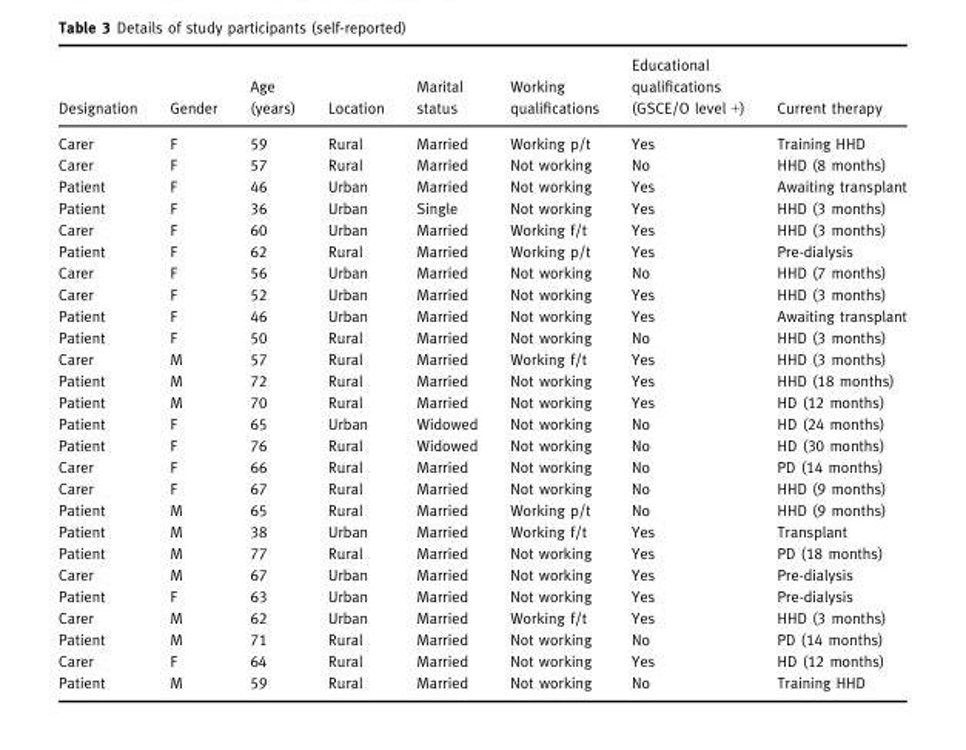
<table><thead><tr><td>Designation</td><td>Gender</td><td>Age (years)</td><td>Location</td><td>Marital status</td><td>Working qualifications</td><td>Educational qualifications (GSCE/O level +)</td><td>Current therapy</td></tr></thead><tbody><tr><td>Carer</td><td>F</td><td>59</td><td>Rural</td><td>Married</td><td>Working p/t</td><td>Yes</td><td>Training HHD</td></tr><tr><td>Carer</td><td>F</td><td>57</td><td>Rural</td><td>Married</td><td>Not working</td><td>No</td><td>HHD (8 months)</td></tr><tr><td>Patient</td><td>F</td><td>46</td><td>Urban</td><td>Married</td><td>Not working</td><td>Yes</td><td>Awaiting transplant</td></tr><tr><td>Patient</td><td>F</td><td>36</td><td>Urban</td><td>Single</td><td>Not working</td><td>Yes</td><td>HHD (3 months)</td></tr><tr><td>Carer</td><td>F</td><td>60</td><td>Urban</td><td>Married</td><td>Working f/t</td><td>Yes</td><td>HHD (3 months)</td></tr><tr><td>Patient</td><td>F</td><td>62</td><td>Rural</td><td>Married</td><td>Working p/t</td><td>Yes</td><td>Pre-dialysis</td></tr><tr><td>Carer</td><td>F</td><td>56</td><td>Urban</td><td>Married</td><td>Not working</td><td>No</td><td>HHD (7 months)</td></tr><tr><td>Carer</td><td>F</td><td>52</td><td>Urban</td><td>Married</td><td>Not working</td><td>Yes</td><td>HHD (3 months)</td></tr><tr><td>Patient</td><td>F</td><td>46</td><td>Urban</td><td>Married</td><td>Not working</td><td>Yes</td><td>Awaiting transplant</td></tr><tr><td>Patient</td><td>F</td><td>50</td><td>Rural</td><td>Married</td><td>Not working</td><td>No</td><td>HHD (3 months)</td></tr><tr><td>Carer</td><td>M</td><td>57</td><td>Rural</td><td>Married</td><td>Working f/t</td><td>Yes</td><td>HHD (3 months)</td></tr><tr><td>Patient</td><td>M</td><td>72</td><td>Rural</td><td>Married</td><td>Not working</td><td>Yes</td><td>HHD (18 months)</td></tr><tr><td>Patient</td><td>M</td><td>70</td><td>Rural</td><td>Married</td><td>Not working</td><td>Yes</td><td>HD (12 months)</td></tr><tr><td>Patient</td><td>F</td><td>65</td><td>Urban</td><td>Widowed</td><td>Not working</td><td>No</td><td>HD (24 months)</td></tr><tr><td>Patient</td><td>F</td><td>76</td><td>Rural</td><td>Widowed</td><td>Not working</td><td>No</td><td>HD (30 months)</td></tr><tr><td>Carer</td><td>F</td><td>66</td><td>Rural</td><td>Married</td><td>Not working</td><td>No</td><td>PD (14 months)</td></tr><tr><td>Carer</td><td>F</td><td>67</td><td>Rural</td><td>Married</td><td>Not working</td><td>No</td><td>HHD (9 months)</td></tr><tr><td>Patient</td><td>M</td><td>65</td><td>Rural</td><td>Married</td><td>Working p/t</td><td>No</td><td>HHD (9 months)</td></tr><tr><td>Patient</td><td>M</td><td>38</td><td>Urban</td><td>Married</td><td>Working f/t</td><td>Yes</td><td>Transplant</td></tr><tr><td>Patient</td><td>M</td><td>77</td><td>Rural</td><td>Married</td><td>Not working</td><td>Yes</td><td>PD (18 months)</td></tr><tr><td>Carer</td><td>M</td><td>67</td><td>Urban</td><td>Married</td><td>Not working</td><td>Yes</td><td>Pre-dialysis</td></tr><tr><td>Patient</td><td>F</td><td>63</td><td>Urban</td><td>Married</td><td>Not working</td><td>Yes</td><td>Pre-dialysis</td></tr><tr><td>Carer</td><td>M</td><td>62</td><td>Urban</td><td>Married</td><td>Working f/t</td><td>Yes</td><td>HHD (3 months)</td></tr><tr><td>Patient</td><td>M</td><td>71</td><td>Rural</td><td>Married</td><td>Not working</td><td>No</td><td>PD (14 months)</td></tr><tr><td>Carer</td><td>F</td><td>64</td><td>Rural</td><td>Married</td><td>Not working</td><td>Yes</td><td>HD (12 months)</td></tr><tr><td>Patient</td><td>M</td><td>59</td><td>Rural</td><td>Married</td><td>Not working</td><td>No</td><td>Training HHD</td></tr></tbody></table>